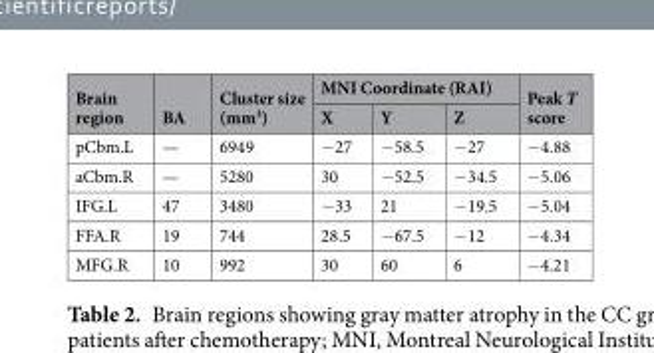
<table><thead><tr><td rowspan="2">Brain region</td><td rowspan="2">BA</td><td rowspan="2">Cluster size (mm<sup>3</sup>)</td><td colspan="3">MNI Coordinate (RAI)</td><td rowspan="2">Peak T score</td></tr><tr><td>X</td><td>Y</td><td>Z</td></tr></thead><tbody><tr><td>pCbm.L</td><td>—</td><td>6949</td><td>−27</td><td>−58.5</td><td>−27</td><td>−4.88</td></tr><tr><td>aCbm.R</td><td>—</td><td>5280</td><td>30</td><td>−52.5</td><td>−34.5</td><td>−5.06</td></tr><tr><td>IFG.L</td><td>47</td><td>3480</td><td>−33</td><td>21</td><td>−19.5</td><td>−5.04</td></tr><tr><td>FFA.R</td><td>19</td><td>744</td><td>28.5</td><td>−67.5</td><td>−12</td><td>−4.34</td></tr><tr><td>MFG.R</td><td>10</td><td>992</td><td>30</td><td>60</td><td>6</td><td>−4.21</td></tr></tbody></table>